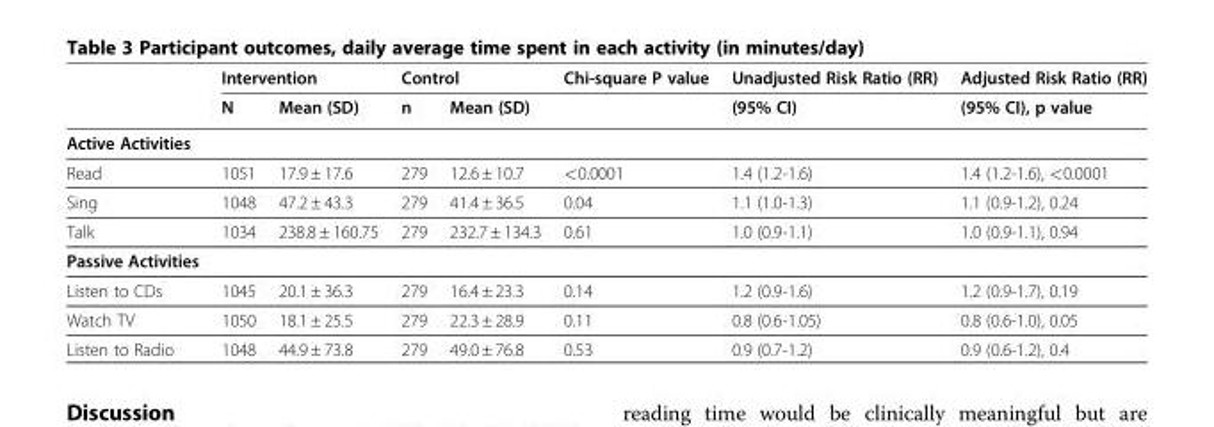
<table><thead><tr><td rowspan="2"></td><td colspan="2">Intervention</td><td colspan="2">Control</td><td rowspan="2">Chi-square P value</td><td rowspan="2">Unadjusted Risk Ratio (RR) (95% CI)</td><td rowspan="2">Adjusted Risk Ratio (RR) (95% CI), p value</td></tr><tr><td>N</td><td>Mean (SD)</td><td>n</td><td>Mean (SD)</td></tr></thead><tbody><tr><td colspan="8">Active Activities</td></tr><tr><td>Read</td><td>1051</td><td>17.9 ± 17.6</td><td>279</td><td>12.6 ± 10.7</td><td>&lt;0.0001</td><td>1.4 (1.2-1.6)</td><td>1.4 (1.2-1.6), &lt;0.0001</td></tr><tr><td>Sing</td><td>1048</td><td>47.2 ± 43.3</td><td>279</td><td>41.4 ± 36.5</td><td>0.04</td><td>1.1 (1.0-1.3)</td><td>1.1 (0.9-1.2), 0.24</td></tr><tr><td>Talk</td><td>1034</td><td>238.8 ± 160.75</td><td>279</td><td>232.7 ± 134.3</td><td>0.61</td><td>1.0 (0.9-1.1)</td><td>1.0 (0.9-1.1), 0.94</td></tr><tr><td colspan="8">Passive Activities</td></tr><tr><td>Listen to CDs</td><td>1045</td><td>20.1 ± 36.3</td><td>279</td><td>16.4 ± 23.3</td><td>0.14</td><td>1.2 (0.9-1.6)</td><td>1.2 (0.9-1.7), 0.19</td></tr><tr><td>Watch TV</td><td>1050</td><td>18.1 ± 25.5</td><td>279</td><td>22.3 ± 28.9</td><td>0.11</td><td>0.8 (0.6-1.05)</td><td>0.8 (0.6-1.0), 0.05</td></tr><tr><td>Listen to Radio</td><td>1048</td><td>44.9 ± 73.8</td><td>279</td><td>49.0 ± 76.8</td><td>0.53</td><td>0.9 (0.7-1.2)</td><td>0.9 (0.6-1.2), 0.4</td></tr></tbody></table>